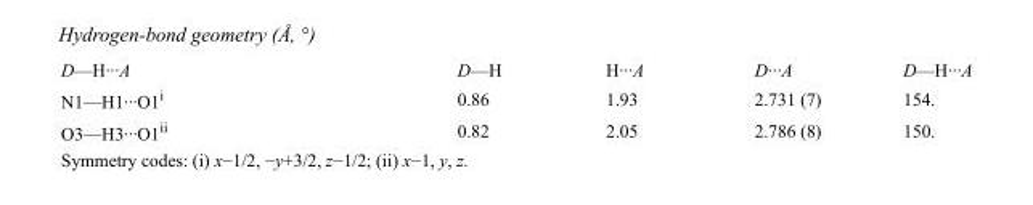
<table><tbody><tr><td>D—H···A</td><td>D—H</td><td>H···A</td><td>D···A</td><td>D—H···A</td></tr><tr><td>N1—H1···O1<sup>i</sup></td><td>0.86</td><td>1.93</td><td>2.731 (7)</td><td>154.</td></tr><tr><td>O3—H3···O1<sup>ii</sup></td><td>0.82</td><td>2.05</td><td>2.786 (8)</td><td>150.</td></tr></tbody></table>